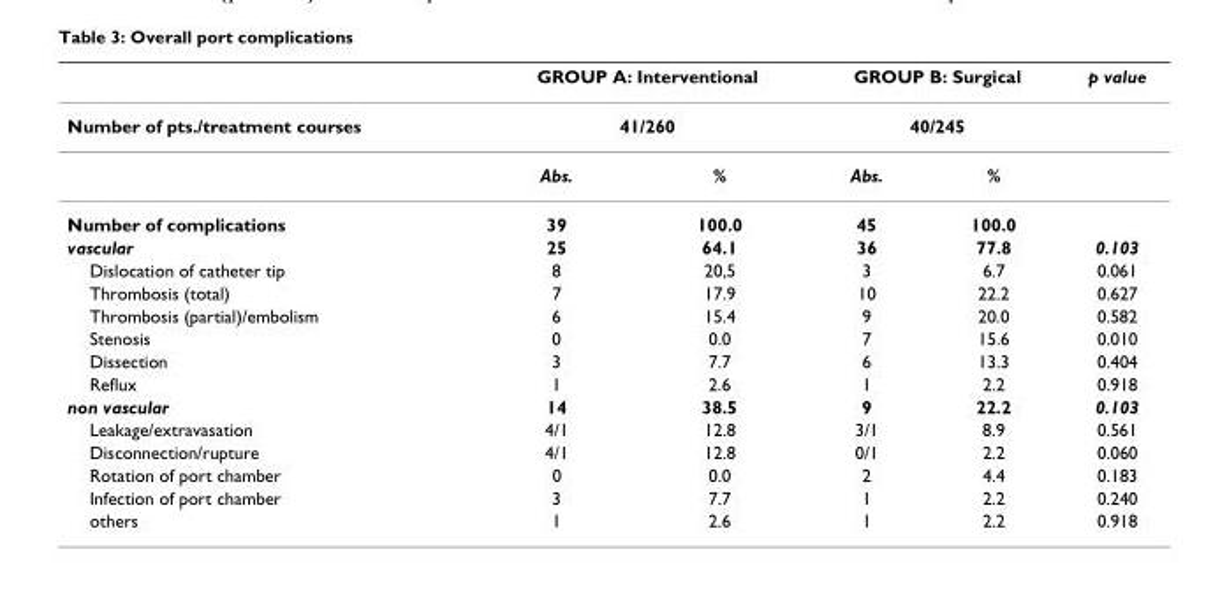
<table><thead><tr><td rowspan="3">Number of pts./treatment courses</td><td rowspan="2" colspan="2">GROUP A: Interventional 41/260</td><td rowspan="2" colspan="2">GROUP B: Surgical 40/245</td><td rowspan="3">p value</td></tr><tr></tr><tr><td>Abs.</td><td>%</td><td>Abs.</td><td>%</td></tr></thead><tbody><tr><td>Number of complications</td><td>39</td><td>100.0</td><td>45</td><td>100.0</td><td></td></tr><tr><td>vascular</td><td>25</td><td>64.1</td><td>36</td><td>77.8</td><td>0.103</td></tr><tr><td>Dislocation of catheter tip</td><td>8</td><td>20,5</td><td>3</td><td>6.7</td><td>0.061</td></tr><tr><td>Thrombosis (total)</td><td>7</td><td>17.9</td><td>10</td><td>22.2</td><td>0.627</td></tr><tr><td>Thrombosis (partial)/embolism</td><td>6</td><td>15.4</td><td>9</td><td>20.0</td><td>0.582</td></tr><tr><td>Stenosis</td><td>0</td><td>0.0</td><td>7</td><td>15.6</td><td>0.010</td></tr><tr><td>Dissection</td><td>3</td><td>7.7</td><td>6</td><td>13.3</td><td>0.404</td></tr><tr><td>Reflux</td><td>1</td><td>2.6</td><td>1</td><td>2.2</td><td>0.918</td></tr><tr><td>non vascular</td><td>14</td><td>38.5</td><td>9</td><td>22.2</td><td>0.103</td></tr><tr><td>Leakage/extravasation</td><td>4/1</td><td>12.8</td><td>3/1</td><td>8.9</td><td>0.561</td></tr><tr><td>Disconnection/rupture</td><td>4/1</td><td>12.8</td><td>0/1</td><td>2.2</td><td>0.060</td></tr><tr><td>Rotation of port chamber</td><td>0</td><td>0.0</td><td>2</td><td>4.4</td><td>0.183</td></tr><tr><td>Infection of port chamber</td><td>3</td><td>7.7</td><td>1</td><td>2.2</td><td>0.240</td></tr><tr><td>others</td><td>1</td><td>2.6</td><td>1</td><td>2.2</td><td>0.918</td></tr></tbody></table>